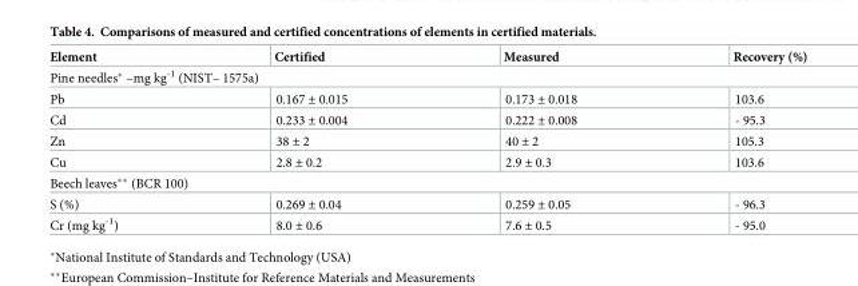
<table><thead><tr><td>Element</td><td>Certified</td><td>Measured</td><td>Recovery (%)</td></tr></thead><tbody><tr><td colspan="4">Pine needles* –mg kg<sup>-1</sup> (NIST– 1575a)</td></tr><tr><td>Pb</td><td>0.167 ± 0.015</td><td>0.173 ± 0.018</td><td>103.6</td></tr><tr><td>Cd</td><td>0.233 ± 0.004</td><td>0.222 ± 0.008</td><td>- 95.3</td></tr><tr><td>Zn</td><td>38 ± 2</td><td>40 ± 2</td><td>105.3</td></tr><tr><td>Cu</td><td>2.8 ± 0.2</td><td>2.9 ± 0.3</td><td>103.6</td></tr><tr><td colspan="4">Beech leaves** (BCR 100)</td></tr><tr><td>S (%)</td><td>0.269 ± 0.04</td><td>0.259 ± 0.05</td><td>- 96.3</td></tr><tr><td>Cr (mg kg<sup>-1</sup>)</td><td>8.0 ± 0.6</td><td>7.6 ± 0.5</td><td>- 95.0</td></tr></tbody></table>